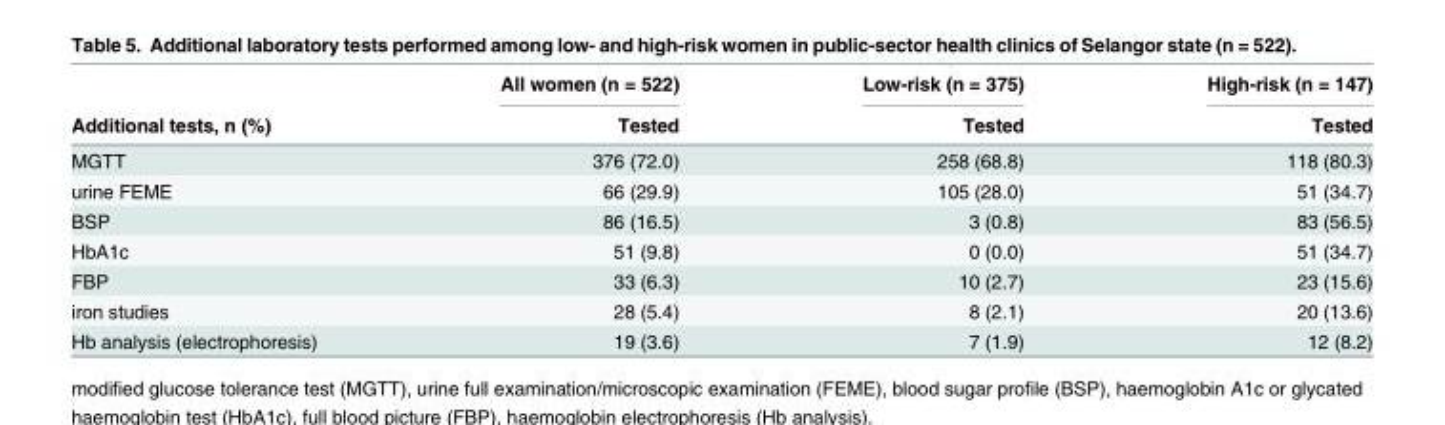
<table><thead><tr><td rowspan="2">Additional tests, n (%)</td><td rowspan="2">All women (n = 522) Tested</td><td rowspan="2">Low-risk (n = 375) Tested</td><td rowspan="2">High-risk (n = 147) Tested</td></tr><tr></tr></thead><tbody><tr><td>MGTT</td><td>376 (72.0)</td><td>258 (68.8)</td><td>118 (80.3)</td></tr><tr><td>urine FEME</td><td>66 (29.9)</td><td>105 (28.0)</td><td>51 (34.7)</td></tr><tr><td>BSP</td><td>86 (16.5)</td><td>3 (0.8)</td><td>83 (56.5)</td></tr><tr><td>HbA1c</td><td>51 (9.8)</td><td>0 (0.0)</td><td>51 (34.7)</td></tr><tr><td>FBP</td><td>33 (6.3)</td><td>10 (2.7)</td><td>23 (15.6)</td></tr><tr><td>iron studies</td><td>28 (5.4)</td><td>8 (2.1)</td><td>20 (13.6)</td></tr><tr><td>Hb analysis (electrophoresis)</td><td>19 (3.6)</td><td>7 (1.9)</td><td>12 (8.2)</td></tr></tbody></table>